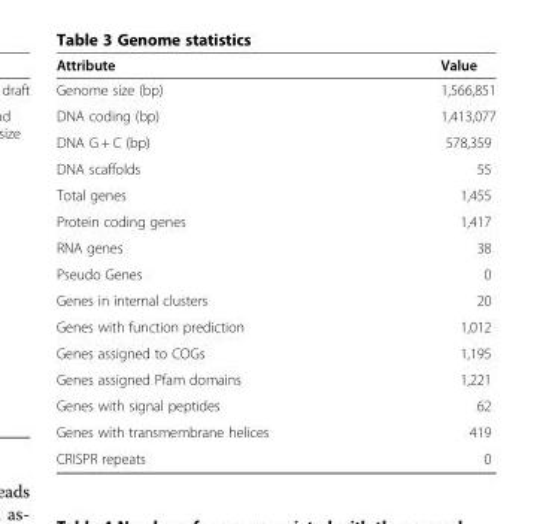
<table><thead><tr><td>Attribute</td><td>Value</td></tr></thead><tbody><tr><td>Genome size (bp)</td><td>1,566,851</td></tr><tr><td>DNA coding (bp)</td><td>1,413,077</td></tr><tr><td>DNA G + C (bp)</td><td>578,359</td></tr><tr><td>DNA scaffolds</td><td>55</td></tr><tr><td>Total genes</td><td>1,455</td></tr><tr><td>Protein coding genes</td><td>1,417</td></tr><tr><td>RNA genes</td><td>38</td></tr><tr><td>Pseudo Genes</td><td>0</td></tr><tr><td>Genes in internal clusters</td><td>20</td></tr><tr><td>Genes with function prediction</td><td>1,012</td></tr><tr><td>Genes assigned to COGs</td><td>1,195</td></tr><tr><td>Genes assigned Pfam domains</td><td>1,221</td></tr><tr><td>Genes with signal peptides</td><td>62</td></tr><tr><td>Genes with transmembrane helices</td><td>419</td></tr><tr><td>CRISPR repeats</td><td>0</td></tr></tbody></table>